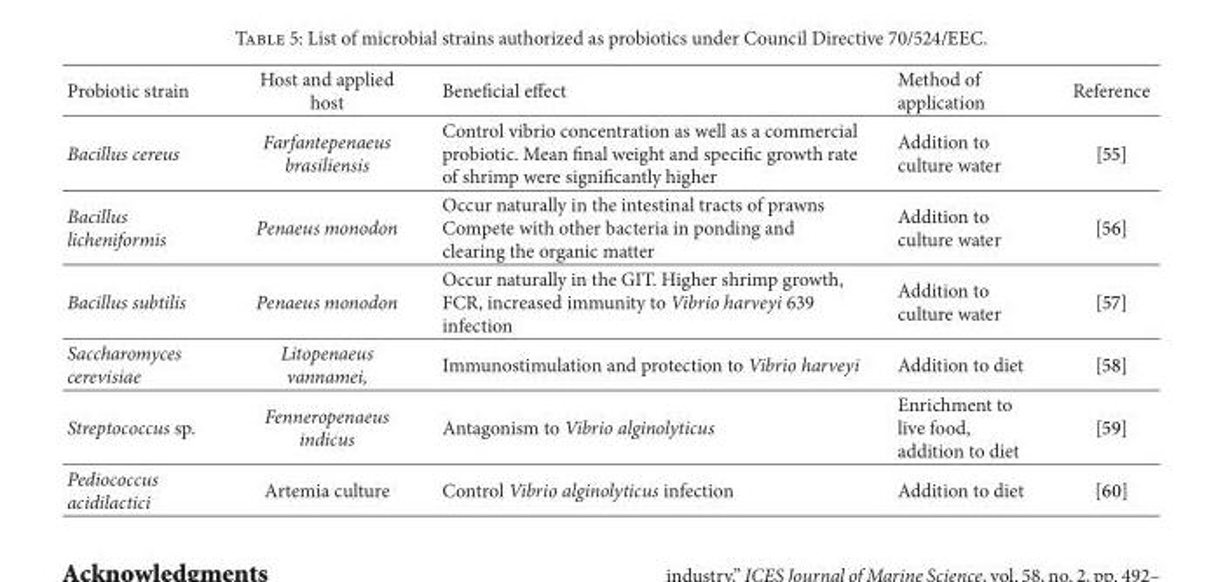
<table><thead><tr><td>Probiotic strain</td><td>Host and applied host</td><td>Beneficial effect</td><td>Method of application</td><td>Reference</td></tr></thead><tbody><tr><td>Bacillus cereus</td><td>Farfantepenaeus brasiliensis</td><td>Control vibrio concentration as well as a commercial probiotic. Mean final weight and specific growth rate of shrimp were significantly higher</td><td>Addition to culture water</td><td>[55]</td></tr><tr><td>Bacillus licheniformis</td><td>Penaeus monodon</td><td>Occur naturally in the intestinal tracts of prawns Compete with other bacteria in ponding and clearing the organic matter</td><td>Addition to culture water</td><td>[56]</td></tr><tr><td>Bacillus subtilis</td><td>Penaeus monodon</td><td>Occur naturally in the GIT. Higher shrimp growth, FCR, increased immunity to Vibrio harveyi 639 infection</td><td>Addition to culture water</td><td>[57]</td></tr><tr><td>Saccharomyces cerevisiae</td><td>Litopenaeus vannamei,</td><td>Immunostimulation and protection to Vibrio harveyi</td><td>Addition to diet</td><td>[58]</td></tr><tr><td>Streptococcus sp.</td><td>Fenneropenaeus indicus</td><td>Antagonism to Vibrio alginolyticus</td><td>Enrichment to live food, addition to diet</td><td>[59]</td></tr><tr><td>Pediococcus acidilactici</td><td>Artemia culture</td><td>Control Vibrio alginolyticus infection</td><td>Addition to diet</td><td>[60]</td></tr></tbody></table>